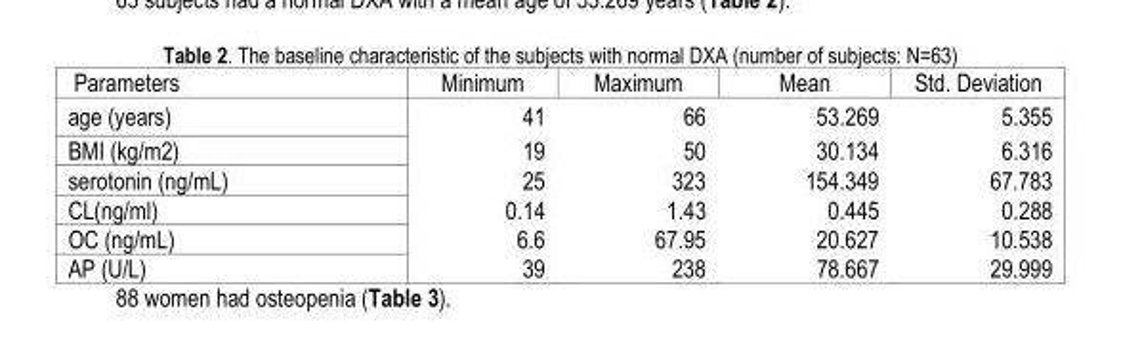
<table><tbody><tr><td>Parameters</td><td>Minimum</td><td>Maximum</td><td>Mean</td><td>Std. Deviation</td></tr><tr><td>age (years)</td><td>41</td><td>66</td><td>53.269</td><td>5.355</td></tr><tr><td>BMI (kg/m2)</td><td>19</td><td>50</td><td>30.134</td><td>6.316</td></tr><tr><td>serotonin (ng/mL)</td><td>25</td><td>323</td><td>154.349</td><td>67.783</td></tr><tr><td>CL(ng/ml)</td><td>0.14</td><td>1.43</td><td>0.445</td><td>0.288</td></tr><tr><td>OC (ng/mL)</td><td>6.6</td><td>67.95</td><td>20.627</td><td>10.538</td></tr><tr><td>AP (U/L)</td><td>39</td><td>238</td><td>78.667</td><td>29.999</td></tr></tbody></table>